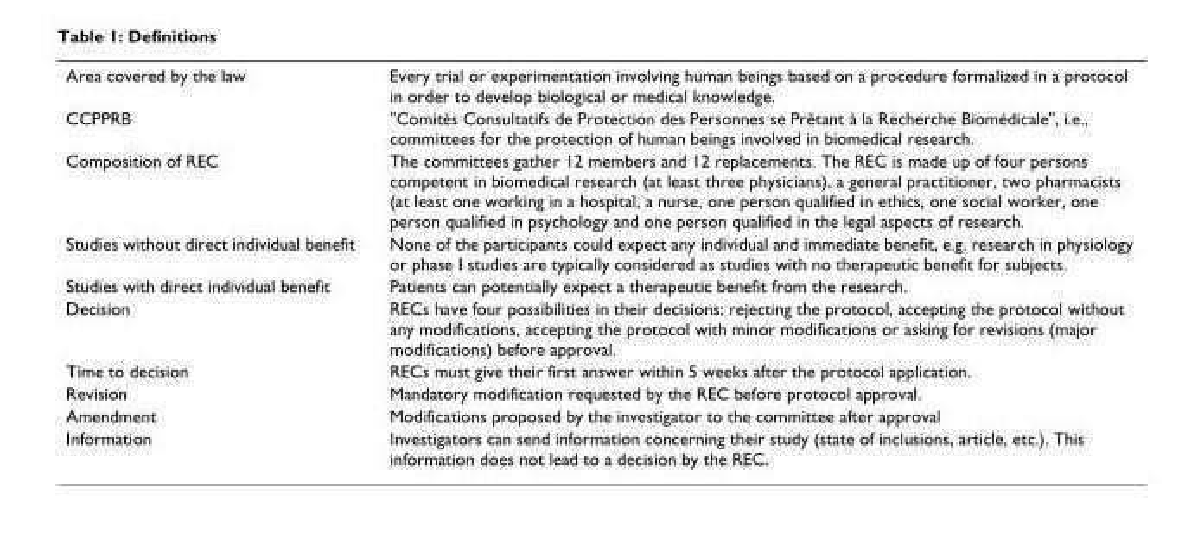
<table><tbody><tr><td>Area covered by the law</td><td>Every trial or experimentation involving human beings based on a procedure formalized in a protocol in order to develop biological or medical knowledge.</td></tr><tr><td>CCPPRB</td><td>&quot;Comités Consultatifs de Protection des Personnes se Prêtant à la Recherche Biomédicale&quot;, i.e., committees for the protection of human beings involved in biomedical research.</td></tr><tr><td>Composition of REC</td><td>The committees gather 12 members and 12 replacements. The REC is made up of four persons competent in biomedical research (at least three physicians), a general practitioner, two pharmacists (at least one working in a hospital, a nurse, one person qualified in ethics, one social worker, one person qualified in psychology and one person qualified in the legal aspects of research.</td></tr><tr><td>Studies without direct individual benefit</td><td>None of the participants could expect any individual and immediate benefit, e.g. research in physiology or phase I studies are typically considered as studies with no therapeutic benefit for subjects.</td></tr><tr><td>Studies with direct individual benefit</td><td>Patients can potentially expect a therapeutic benefit from the research.</td></tr><tr><td>Decision</td><td>RECs have four possibilities in their decisions: rejecting the protocol, accepting the protocol without any modifications, accepting the protocol with minor modifications or asking for revisions (major modifications) before approval.</td></tr><tr><td>Time to decision</td><td>RECs must give their first answer within 5 weeks after the protocol application.</td></tr><tr><td>Revision</td><td>Mandatory modification requested by the REC before protocol approval.</td></tr><tr><td>Amendment</td><td>Modifications proposed by the investigator to the committee after approval</td></tr><tr><td>Information</td><td>Investigators can send information concerning their study (state of inclusions, article, etc.). This information does not lead to a decision by the REC.</td></tr></tbody></table>